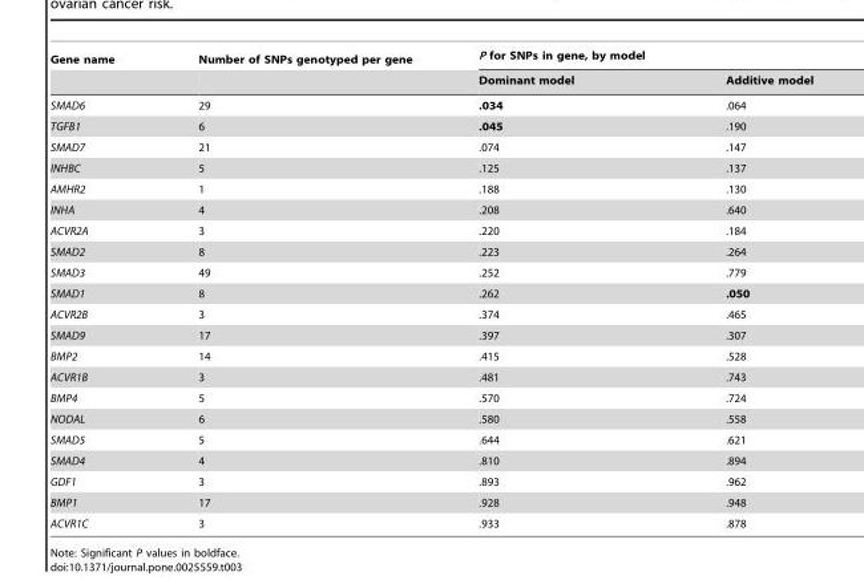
<table><thead><tr><td rowspan="2">Gene name</td><td rowspan="2">Number of SNPs genotyped per gene</td><td colspan="2">P for SNPs in gene, by model</td></tr><tr><td>Dominant model</td><td>Additive model</td></tr></thead><tbody><tr><td>SMAD6</td><td>29</td><td>.034</td><td>.064</td></tr><tr><td>TGFB1</td><td>6</td><td>.045</td><td>.190</td></tr><tr><td>SMAD7</td><td>21</td><td>.074</td><td>.147</td></tr><tr><td>INHBC</td><td>5</td><td>.125</td><td>.137</td></tr><tr><td>AMHR2</td><td>1</td><td>.188</td><td>.130</td></tr><tr><td>INHA</td><td>4</td><td>.208</td><td>.640</td></tr><tr><td>ACVR2A</td><td>3</td><td>.220</td><td>.184</td></tr><tr><td>SMAD2</td><td>8</td><td>.223</td><td>.264</td></tr><tr><td>SMAD3</td><td>49</td><td>.252</td><td>.779</td></tr><tr><td>SMAD1</td><td>8</td><td>.262</td><td>.050</td></tr><tr><td>ACVR2B</td><td>3</td><td>.374</td><td>.465</td></tr><tr><td>SMAD9</td><td>17</td><td>.397</td><td>.307</td></tr><tr><td>BMP2</td><td>14</td><td>.415</td><td>.528</td></tr><tr><td>ACVR1B</td><td>3</td><td>.481</td><td>.743</td></tr><tr><td>BMP4</td><td>5</td><td>.570</td><td>.724</td></tr><tr><td>NODAL</td><td>6</td><td>.580</td><td>.558</td></tr><tr><td>SMAD5</td><td>5</td><td>.644</td><td>.621</td></tr><tr><td>SMAD4</td><td>4</td><td>.810</td><td>.894</td></tr><tr><td>GDF1</td><td>3</td><td>.893</td><td>.962</td></tr><tr><td>BMP1</td><td>17</td><td>.928</td><td>.948</td></tr><tr><td>ACVR1C</td><td>3</td><td>.933</td><td>.878</td></tr></tbody></table>